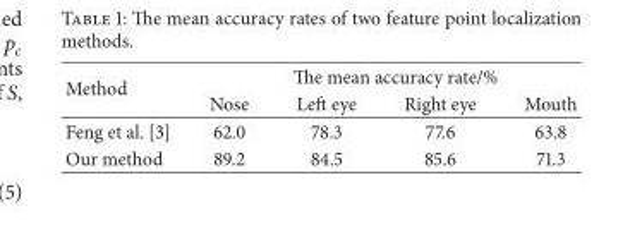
<table><thead><tr><td rowspan="2">Method</td><td colspan="4">The mean accuracy rate/%</td></tr><tr><td>Nose</td><td>Left eye</td><td>Right eye</td><td>Mouth</td></tr></thead><tbody><tr><td>Feng et al. [3]</td><td>62.0</td><td>78.3</td><td>77.6</td><td>63.8</td></tr><tr><td>Our method</td><td>89.2</td><td>84.5</td><td>85.6</td><td>71.3</td></tr></tbody></table>